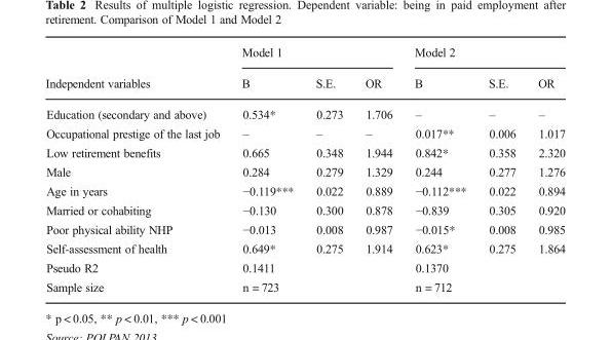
<table><thead><tr><td rowspan="2">Independent variables</td><td colspan="3">Model 1</td><td colspan="3">Model 2</td></tr><tr><td>B</td><td>S.E.</td><td>OR</td><td>B</td><td>S.E.</td><td>OR</td></tr></thead><tbody><tr><td>Education (secondary and above)</td><td>0.534*</td><td>0.273</td><td>1.706</td><td>–</td><td>–</td><td>–</td></tr><tr><td>Occupational prestige of the last job</td><td>–</td><td>–</td><td>–</td><td>0.017**</td><td>0.006</td><td>1.017</td></tr><tr><td>Low retirement benefits</td><td>0.665</td><td>0.348</td><td>1.944</td><td>0.842*</td><td>0.358</td><td>2.320</td></tr><tr><td>Male</td><td>0.284</td><td>0.279</td><td>1.329</td><td>0.244</td><td>0.277</td><td>1.276</td></tr><tr><td>Age in years</td><td>−0.119***</td><td>0.022</td><td>0.889</td><td>−0.112***</td><td>0.022</td><td>0.894</td></tr><tr><td>Married or cohabiting</td><td>−0.130</td><td>0.300</td><td>0.878</td><td>−0.839</td><td>0.305</td><td>0.920</td></tr><tr><td>Poor physical ability NHP</td><td>−0.013</td><td>0.008</td><td>0.987</td><td>−0.015*</td><td>0.008</td><td>0.985</td></tr><tr><td>Self-assessment of health</td><td>0.649*</td><td>0.275</td><td>1.914</td><td>0.623*</td><td>0.275</td><td>1.864</td></tr><tr><td>Pseudo R2</td><td colspan="3">0.1411</td><td colspan="3">0.1370</td></tr><tr><td>Sample size</td><td colspan="3">n = 723</td><td colspan="3">n = 712</td></tr></tbody></table>